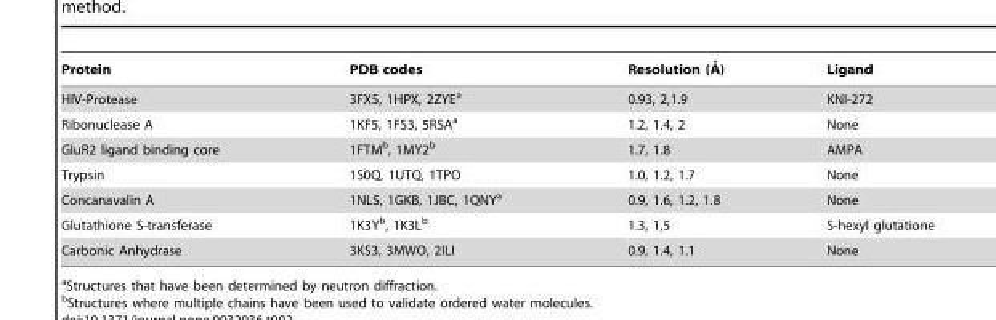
<table><thead><tr><td>Protein</td><td>PDB codes</td><td>Resolution (A˚ )</td><td>Ligand</td></tr></thead><tbody><tr><td>HIV-Protease</td><td>3FX5, 1HPX, 2ZYE<sup>a</sup></td><td>0.93, 2,1.9</td><td>KNI-272</td></tr><tr><td>Ribonuclease A</td><td>1KF5, 1FS3, 5RSA<sup>a</sup></td><td>1.2, 1.4, 2</td><td>None</td></tr><tr><td>GluR2 ligand binding core</td><td>1FTM<sup>b</sup>, 1MY2<sup>b</sup></td><td>1.7, 1.8</td><td>AMPA</td></tr><tr><td>Trypsin</td><td>1S0Q, 1UTQ, 1TPO</td><td>1.0, 1.2, 1.7</td><td>None</td></tr><tr><td>Concanavalin A</td><td>1NLS, 1GKB, 1JBC, 1QNY<sup>a</sup></td><td>0.9, 1.6, 1.2, 1.8</td><td>None</td></tr><tr><td>Glutathione S-transferase</td><td>1K3Y<sup>b</sup>, 1K3L<sup>b</sup></td><td>1.3, 1,5</td><td>S-hexyl glutatione</td></tr><tr><td>Carbonic Anhydrase</td><td>3KS3, 3MWO, 2ILI</td><td>0.9, 1.4, 1.1</td><td>None</td></tr></tbody></table>